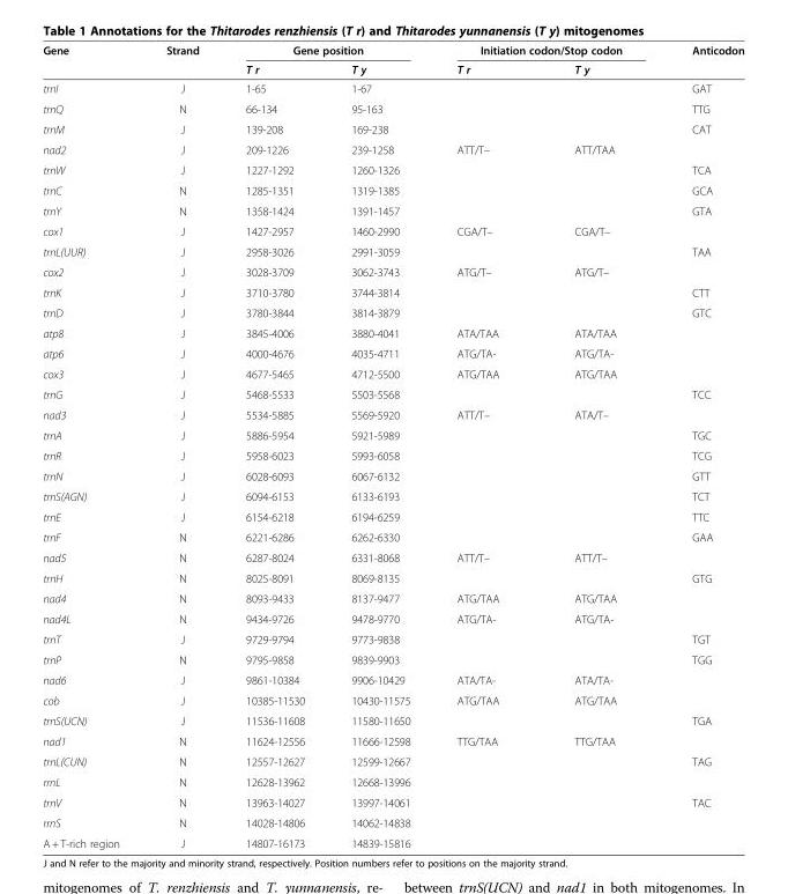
<table><thead><tr><td rowspan="2">Gene</td><td rowspan="2">Strand</td><td colspan="2">Gene position</td><td colspan="2">Initiation codon/Stop codon</td><td rowspan="2">Anticodon</td></tr><tr><td>T r</td><td>T y</td><td>T r</td><td>T y</td></tr></thead><tbody><tr><td>trnI</td><td>J</td><td>1-65</td><td>1-67</td><td></td><td></td><td>GAT</td></tr><tr><td>trnQ</td><td>N</td><td>66-134</td><td>95-163</td><td></td><td></td><td>TTG</td></tr><tr><td>trnM</td><td>J</td><td>139-208</td><td>169-238</td><td></td><td></td><td>CAT</td></tr><tr><td>nad2</td><td>J</td><td>209-1226</td><td>239-1258</td><td>ATT/T–</td><td>ATT/TAA</td><td></td></tr><tr><td>trnW</td><td>J</td><td>1227-1292</td><td>1260-1326</td><td></td><td></td><td>TCA</td></tr><tr><td>trnC</td><td>N</td><td>1285-1351</td><td>1319-1385</td><td></td><td></td><td>GCA</td></tr><tr><td>trnY</td><td>N</td><td>1358-1424</td><td>1391-1457</td><td></td><td></td><td>GTA</td></tr><tr><td>cox1</td><td>J</td><td>1427-2957</td><td>1460-2990</td><td>CGA/T–</td><td>CGA/T–</td><td></td></tr><tr><td>trnL(UUR)</td><td>J</td><td>2958-3026</td><td>2991-3059</td><td></td><td></td><td>TAA</td></tr><tr><td>cox2</td><td>J</td><td>3028-3709</td><td>3062-3743</td><td>ATG/T–</td><td>ATG/T–</td><td></td></tr><tr><td>trnK</td><td>J</td><td>3710-3780</td><td>3744-3814</td><td></td><td></td><td>CTT</td></tr><tr><td>trnD</td><td>J</td><td>3780-3844</td><td>3814-3879</td><td></td><td></td><td>GTC</td></tr><tr><td>atp8</td><td>J</td><td>3845-4006</td><td>3880-4041</td><td>ATA/TAA</td><td>ATA/TAA</td><td></td></tr><tr><td>atp6</td><td>J</td><td>4000-4676</td><td>4035-4711</td><td>ATG/TA-</td><td>ATG/TA-</td><td></td></tr><tr><td>cox3</td><td>J</td><td>4677-5465</td><td>4712-5500</td><td>ATG/TAA</td><td>ATG/TAA</td><td></td></tr><tr><td>trnG</td><td>J</td><td>5468-5533</td><td>5503-5568</td><td></td><td></td><td>TCC</td></tr><tr><td>nad3</td><td>J</td><td>5534-5885</td><td>5569-5920</td><td>ATT/T–</td><td>ATA/T–</td><td></td></tr><tr><td>trnA</td><td>J</td><td>5886-5954</td><td>5921-5989</td><td></td><td></td><td>TGC</td></tr><tr><td>trnR</td><td>J</td><td>5958-6023</td><td>5993-6058</td><td></td><td></td><td>TCG</td></tr><tr><td>trnN</td><td>J</td><td>6028-6093</td><td>6067-6132</td><td></td><td></td><td>GTT</td></tr><tr><td>trnS(AGN)</td><td>J</td><td>6094-6153</td><td>6133-6193</td><td></td><td></td><td>TCT</td></tr><tr><td>trnE</td><td>J</td><td>6154-6218</td><td>6194-6259</td><td></td><td></td><td>TTC</td></tr><tr><td>trnF</td><td>N</td><td>6221-6286</td><td>6262-6330</td><td></td><td></td><td>GAA</td></tr><tr><td>nad5</td><td>N</td><td>6287-8024</td><td>6331-8068</td><td>ATT/T–</td><td>ATT/T–</td><td></td></tr><tr><td>trnH</td><td>N</td><td>8025-8091</td><td>8069-8135</td><td></td><td></td><td>GTG</td></tr><tr><td>nad4</td><td>N</td><td>8093-9433</td><td>8137-9477</td><td>ATG/TAA</td><td>ATG/TAA</td><td></td></tr><tr><td>nad4L</td><td>N</td><td>9434-9726</td><td>9478-9770</td><td>ATG/TA-</td><td>ATG/TA-</td><td></td></tr><tr><td>trnT</td><td>J</td><td>9729-9794</td><td>9773-9838</td><td></td><td></td><td>TGT</td></tr><tr><td>trnP</td><td>N</td><td>9795-9858</td><td>9839-9903</td><td></td><td></td><td>TGG</td></tr><tr><td>nad6</td><td>J</td><td>9861-10384</td><td>9906-10429</td><td>ATA/TA-</td><td>ATA/TA-</td><td></td></tr><tr><td>cob</td><td>J</td><td>10385-11530</td><td>10430-11575</td><td>ATG/TAA</td><td>ATG/TAA</td><td></td></tr><tr><td>trnS(UCN)</td><td>J</td><td>11536-11608</td><td>11580-11650</td><td></td><td></td><td>TGA</td></tr><tr><td>nad1</td><td>N</td><td>11624-12556</td><td>11666-12598</td><td>TTG/TAA</td><td>TTG/TAA</td><td></td></tr><tr><td>trnL(CUN)</td><td>N</td><td>12557-12627</td><td>12599-12667</td><td></td><td></td><td>TAG</td></tr><tr><td>rrnL</td><td>N</td><td>12628-13962</td><td>12668-13996</td><td></td><td></td><td></td></tr><tr><td>trnV</td><td>N</td><td>13963-14027</td><td>13997-14061</td><td></td><td></td><td>TAC</td></tr><tr><td>rrnS</td><td>N</td><td>14028-14806</td><td>14062-14838</td><td></td><td></td><td></td></tr><tr><td>A + T-rich region</td><td>J</td><td>14807-16173</td><td>14839-15816</td><td></td><td></td><td></td></tr></tbody></table>